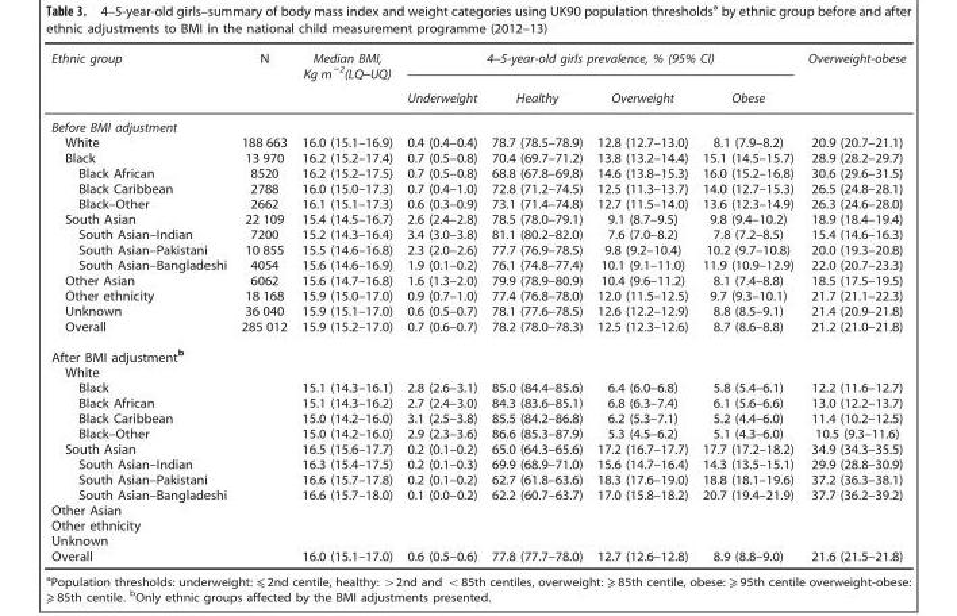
<table><thead><tr><td rowspan="2">Ethnic group</td><td rowspan="2">N</td><td rowspan="2">Median BMI, Kg m <sup>−2</sup>(LQ–UQ)</td><td colspan="4">4–5-year-old girls prevalence, % (95% CI)</td><td rowspan="2">Overweight-obese</td></tr><tr><td>Underweight</td><td>Healthy</td><td>Overweight</td><td>Obese</td></tr></thead><tbody><tr><td colspan="8">Before BMI adjustment</td></tr><tr><td>White</td><td>188 663</td><td>16.0 (15.1–16.9)</td><td>0.4 (0.4–0.4)</td><td>78.7 (78.5–78.9)</td><td>12.8 (12.7–13.0)</td><td>8.1 (7.9–8.2)</td><td>20.9 (20.7–21.1)</td></tr><tr><td>Black</td><td>13 970</td><td>16.2 (15.2–17.4)</td><td>0.7 (0.5–0.8)</td><td>70.4 (69.7–71.2)</td><td>13.8 (13.2–14.4)</td><td>15.1 (14.5–15.7)</td><td>28.9 (28.2–29.7)</td></tr><tr><td>Black African</td><td>8520</td><td>16.2 (15.2–17.5)</td><td>0.7 (0.5–0.8)</td><td>68.8 (67.8–69.8)</td><td>14.6 (13.8–15.3)</td><td>16.0 (15.2–16.8)</td><td>30.6 (29.6–31.5)</td></tr><tr><td>Black Caribbean</td><td>2788</td><td>16.0 (15.0–17.3)</td><td>0.7 (0.4–1.0)</td><td>72.8 (71.2–74.5)</td><td>12.5 (11.3–13.7)</td><td>14.0 (12.7–15.3)</td><td>26.5 (24.8–28.1)</td></tr><tr><td>Black–Other</td><td>2662</td><td>16.1 (15.1–17.3)</td><td>0.6 (0.3–0.9)</td><td>73.1 (71.4–74.8)</td><td>12.7 (11.5–14.0)</td><td>13.6 (12.3–14.9)</td><td>26.3 (24.6–28.0)</td></tr><tr><td>South Asian</td><td>22 109</td><td>15.4 (14.5–16.7)</td><td>2.6 (2.4–2.8)</td><td>78.5 (78.0–79.1)</td><td>9.1 (8.7–9.5)</td><td>9.8 (9.4–10.2)</td><td>18.9 (18.4–19.4)</td></tr><tr><td>South Asian–Indian</td><td>7200</td><td>15.2 (14.3–16.4)</td><td>3.4 (3.0–3.8)</td><td>81.1 (80.2–82.0)</td><td>7.6 (7.0–8.2)</td><td>7.8 (7.2–8.5)</td><td>15.4 (14.6–16.3)</td></tr><tr><td>South Asian–Pakistani</td><td>10 855</td><td>15.5 (14.6–16.8)</td><td>2.3 (2.0–2.6)</td><td>77.7 (76.9–78.5)</td><td>9.8 (9.2–10.4)</td><td>10.2 (9.7–10.8)</td><td>20.0 (19.3–20.8)</td></tr><tr><td>South Asian–Bangladeshi</td><td>4054</td><td>15.6 (14.6–16.9)</td><td>1.9 (0.1–0.2)</td><td>76.1 (74.8–77.4)</td><td>10.1 (9.1–11.0)</td><td>11.9 (10.9–12.9)</td><td>22.0 (20.7–23.3)</td></tr><tr><td>Other Asian</td><td>6062</td><td>15.6 (14.7–16.8)</td><td>1.6 (1.3–2.0)</td><td>79.9 (78.9–80.9)</td><td>10.4 (9.6–11.2)</td><td>8.1 (7.4–8.8)</td><td>18.5 (17.5–19.5)</td></tr><tr><td>Other ethnicity</td><td>18 168</td><td>15.9 (15.0–17.0)</td><td>0.9 (0.7–1.0)</td><td>77.4 (76.8–78.0)</td><td>12.0 (11.5–12.5)</td><td>9.7 (9.3–10.1)</td><td>21.7 (21.1–22.3)</td></tr><tr><td>Unknown</td><td>36 040</td><td>15.9 (15.1–17.0)</td><td>0.6 (0.5–0.7)</td><td>78.1 (77.6–78.5)</td><td>12.6 (12.2–12.9)</td><td>8.8 (8.5–9.1)</td><td>21.4 (20.9–21.8)</td></tr><tr><td>Overall</td><td>285 012</td><td>15.9 (15.2–17.0)</td><td>0.7 (0.6–0.7)</td><td>78.2 (78.0–78.3)</td><td>12.5 (12.3–12.6)</td><td>8.7 (8.6–8.8)</td><td>21.2 (21.0–21.8)</td></tr><tr><td colspan="8">After BMI adjustment<sup>b</sup></td></tr><tr><td colspan="8">White</td></tr><tr><td>Black</td><td></td><td>15.1 (14.3–16.1)</td><td>2.8 (2.6–3.1)</td><td>85.0 (84.4–85.6)</td><td>6.4 (6.0–6.8)</td><td>5.8 (5.4–6.1)</td><td>12.2 (11.6–12.7)</td></tr><tr><td>Black African</td><td></td><td>15.1 (14.3–16.2)</td><td>2.7 (2.4–3.0)</td><td>84.3 (83.6–85.1)</td><td>6.8 (6.3–7.4)</td><td>6.1 (5.6–6.6)</td><td>13.0 (12.2–13.7)</td></tr><tr><td>Black Caribbean</td><td></td><td>15.0 (14.2–16.0)</td><td>3.1 (2.5–3.8)</td><td>85.5 (84.2–86.8)</td><td>6.2 (5.3–7.1)</td><td>5.2 (4.4–6.0)</td><td>11.4 (10.2–12.5)</td></tr><tr><td>Black–Other</td><td></td><td>15.0 (14.2–16.0)</td><td>2.9 (2.3–3.6)</td><td>86.6 (85.3–87.9)</td><td>5.3 (4.5–6.2)</td><td>5.1 (4.3–6.0)</td><td>10.5 (9.3–11.6)</td></tr><tr><td>South Asian</td><td></td><td>16.5 (15.6–17.7)</td><td>0.2 (0.1–0.2)</td><td>65.0 (64.3–65.6)</td><td>17.2 (16.7–17.7)</td><td>17.7 (17.2–18.2)</td><td>34.9 (34.3–35.5)</td></tr><tr><td>South Asian–Indian</td><td></td><td>16.3 (15.4–17.5)</td><td>0.2 (0.1–0.3)</td><td>69.9 (68.9–71.0)</td><td>15.6 (14.7–16.4)</td><td>14.3 (13.5–15.1)</td><td>29.9 (28.8–30.9)</td></tr><tr><td>South Asian–Pakistani</td><td></td><td>16.6 (15.7–17.8)</td><td>0.2 (0.1–0.2)</td><td>62.7 (61.8–63.6)</td><td>18.3 (17.6–19.0)</td><td>18.8 (18.1–19.6)</td><td>37.2 (36.3–38.1)</td></tr><tr><td>South Asian–Bangladeshi</td><td></td><td>16.6 (15.7–18.0)</td><td>0.1 (0.0–0.2)</td><td>62.2 (60.7–63.7)</td><td>17.0 (15.8–18.2)</td><td>20.7 (19.4–21.9)</td><td>37.7 (36.2–39.2)</td></tr><tr><td colspan="8">Other Asian</td></tr><tr><td colspan="8">Other ethnicity</td></tr><tr><td colspan="8">Unknown</td></tr><tr><td>Overall</td><td></td><td>16.0 (15.1–17.0)</td><td>0.6 (0.5–0.6)</td><td>77.8 (77.7–78.0)</td><td>12.7 (12.6–12.8)</td><td>8.9 (8.8–9.0)</td><td>21.6 (21.5–21.8)</td></tr></tbody></table>